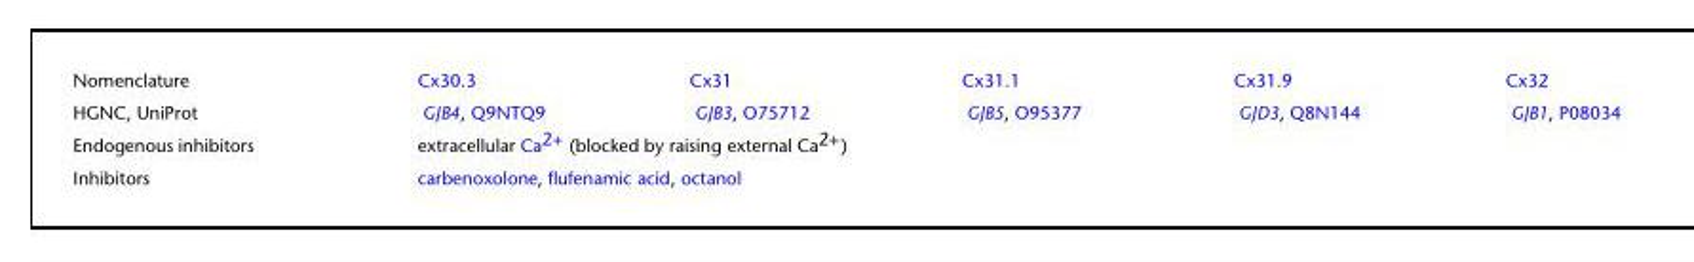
<table><tbody><tr><td>Nomenclature</td><td>Cx30.3</td><td>Cx31</td><td>Cx31.1</td><td>Cx31.9</td><td>Cx32</td></tr><tr><td>HGNC, UniProt</td><td>GJB4, Q9NTQ9</td><td>GJB3, O75712</td><td>GJB5, O95377</td><td>GJD3, Q8N144</td><td>GJB1, P08034</td></tr><tr><td>Endogenous inhibitors</td><td colspan="4">extracellular Ca<sup>2+</sup> (blocked by raising external Ca<sup>2+</sup>)</td><td></td></tr><tr><td>Inhibitors</td><td colspan="4">carbenoxolone, flufenamic acid, octanol</td><td></td></tr></tbody></table>